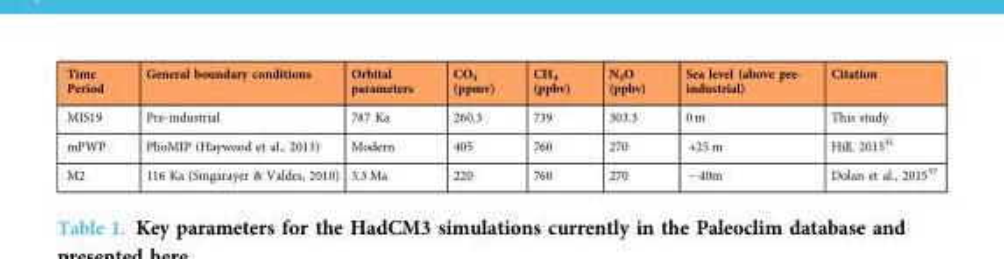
<table><thead><tr><td>Time Period</td><td>General boundary conditions</td><td>Orbital parameters</td><td>CO<sub>2</sub> (ppmv)</td><td>CH<sub>4</sub> (ppbv)</td><td>N<sub>2</sub>O (ppbv)</td><td>Sea level (above pre- industrial)</td><td>Citation</td></tr></thead><tbody><tr><td>MIS19</td><td>Pre-industrial</td><td>787 Ka</td><td>260.3</td><td>739</td><td>303.3</td><td>0 m</td><td>This study</td></tr><tr><td>mPWP</td><td>PlioMIP (Haywood et al., 2013)</td><td>Modern</td><td>405</td><td>760</td><td>270</td><td>+25 m</td><td>Hill, 2015<sup>31</sup></td></tr><tr><td>M2</td><td>116 Ka (Singarayer &amp; Valdes, 2010)</td><td>3.3 Ma</td><td>220</td><td>760</td><td>270</td><td>−40m</td><td>Dolan et al., 2015<sup>37</sup></td></tr></tbody></table>